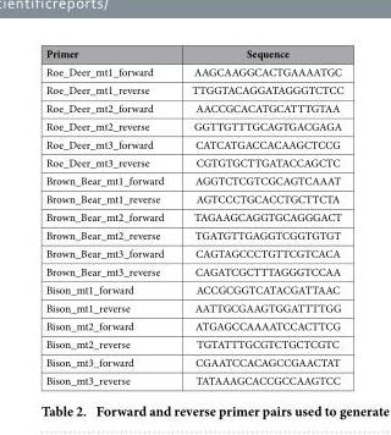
<table><thead><tr><td>Primer</td><td>Sequence</td></tr></thead><tbody><tr><td>Roe_Deer_mt1_forward</td><td>AAGCAAGGCACTGAAAATGC</td></tr><tr><td>Roe_Deer_mt1_reverse</td><td>TTGGTACAGGATAGGGTCTCC</td></tr><tr><td>Roe_Deer_mt2_forward</td><td>AACCGCACATGCATTTGTAA</td></tr><tr><td>Roe_Deer_mt2_reverse</td><td>GGTTGTTTGCAGTGACGAGA</td></tr><tr><td>Roe_Deer_mt3_forward</td><td>CATCATGACCACAAGCTCCG</td></tr><tr><td>Roe_Deer_mt3_reverse</td><td>CGTGTGCTTGATACCAGCTC</td></tr><tr><td>Brown_Bear_mt1_forward</td><td>AGGTCTCGTCGCAGTCAAAT</td></tr><tr><td>Brown_Bear_mt1_reverse</td><td>AGTCCCTGCACCTGCTTCTA</td></tr><tr><td>Brown_Bear_mt2_forward</td><td>TAGAAGCAGGTGCAGGGACT</td></tr><tr><td>Brown_Bear_mt2_reverse</td><td>TGATGTTGAGGTCGGTGTGT</td></tr><tr><td>Brown_Bear_mt3_forward</td><td>CAGTAGCCCTGTTCGTCACA</td></tr><tr><td>Brown_Bear_mt3_reverse</td><td>CAGATCGCTTTAGGGTCCAA</td></tr><tr><td>Bison_mt1_forward</td><td>ACCGCGGTCATACGATTAAC</td></tr><tr><td>Bison_mt1_reverse</td><td>AATTGCGAAGTGGATTTTGG</td></tr><tr><td>Bison_mt2_forward</td><td>ATGAGCCAAAATCCACTTCG</td></tr><tr><td>Bison_mt2_reverse</td><td>TGTATTTGCGTCTGCTCGTC</td></tr><tr><td>Bison_mt3_forward</td><td>CGAATCCACAGCCGAACTAT</td></tr><tr><td>Bison_mt3_reverse</td><td>TATAAAGCACCGCCAAGTCC</td></tr></tbody></table>